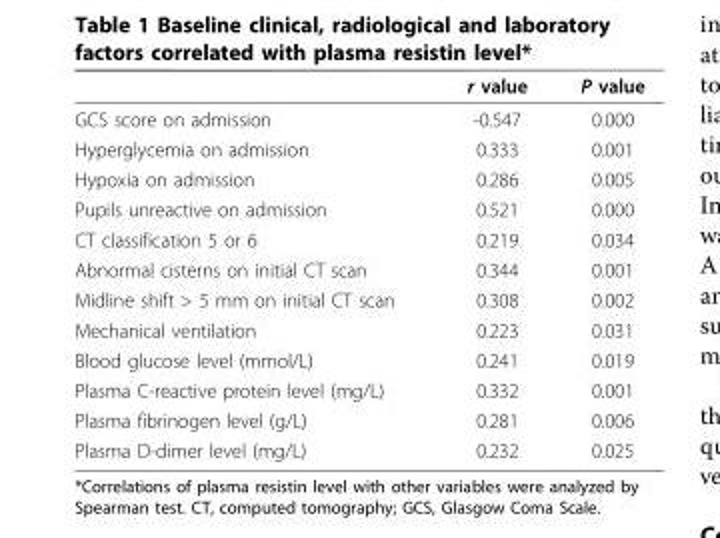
<table><thead><tr><td></td><td>r value</td><td>P value</td></tr></thead><tbody><tr><td>GCS score on admission</td><td>-0.547</td><td>0.000</td></tr><tr><td>Hyperglycemia on admission</td><td>0.333</td><td>0.001</td></tr><tr><td>Hypoxia on admission</td><td>0.286</td><td>0.005</td></tr><tr><td>Pupils unreactive on admission</td><td>0.521</td><td>0.000</td></tr><tr><td>CT classification 5 or 6</td><td>0.219</td><td>0.034</td></tr><tr><td>Abnormal cisterns on initial CT scan</td><td>0.344</td><td>0.001</td></tr><tr><td>Midline shift &gt; 5 mm on initial CT scan</td><td>0.308</td><td>0.002</td></tr><tr><td>Mechanical ventilation</td><td>0.223</td><td>0.031</td></tr><tr><td>Blood glucose level (mmol/L)</td><td>0.241</td><td>0.019</td></tr><tr><td>Plasma C-reactive protein level (mg/L)</td><td>0.332</td><td>0.001</td></tr><tr><td>Plasma fibrinogen level (g/L)</td><td>0.281</td><td>0.006</td></tr><tr><td>Plasma D-dimer level (mg/L)</td><td>0.232</td><td>0.025</td></tr></tbody></table>